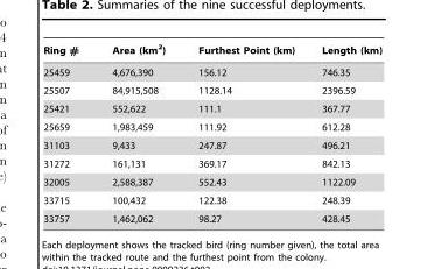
<table><thead><tr><td>Ring #</td><td>Area (km<sup>2</sup>)</td><td>Furthest Point (km)</td><td>Length (km)</td></tr></thead><tbody><tr><td>25459</td><td>4,676,390</td><td>156.12</td><td>746.35</td></tr><tr><td>25507</td><td>84,915,508</td><td>1128.14</td><td>2396.59</td></tr><tr><td>25421</td><td>552,622</td><td>111.1</td><td>367.77</td></tr><tr><td>25659</td><td>1,983,459</td><td>111.92</td><td>612.28</td></tr><tr><td>31103</td><td>9,433</td><td>247.87</td><td>496.21</td></tr><tr><td>31272</td><td>161,131</td><td>369.17</td><td>842.13</td></tr><tr><td>32005</td><td>2,588,387</td><td>552.43</td><td>1122.09</td></tr><tr><td>33715</td><td>100,432</td><td>122.38</td><td>248.39</td></tr><tr><td>33757</td><td>1,462,062</td><td>98.27</td><td>428.45</td></tr></tbody></table>